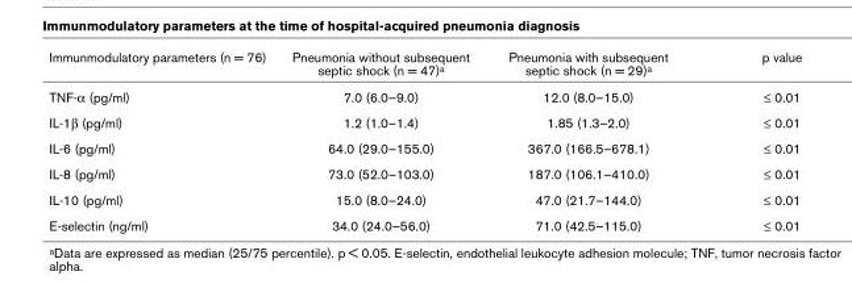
<table><thead><tr><td>Immunmodulatory parameters (n = 76)</td><td>Pneumonia without subsequent septic shock (n = 47)a</td><td>Pneumonia with subsequent septic shock (n = 29)a</td><td>p value</td></tr></thead><tbody><tr><td>TNF-α (pg/ml)</td><td>7.0 (6.0–9.0)</td><td>12.0 (8.0–15.0)</td><td>≤ 0.01</td></tr><tr><td>IL-1β (pg/ml)</td><td>1.2 (1.0–1.4)</td><td>1.85 (1.3–2.0)</td><td>≤ 0.01</td></tr><tr><td>IL-6 (pg/ml)</td><td>64.0 (29.0–155.0)</td><td>367.0 (166.5–678.1)</td><td>≤ 0.01</td></tr><tr><td>IL-8 (pg/ml)</td><td>73.0 (52.0–103.0)</td><td>187.0 (106.1–410.0)</td><td>≤ 0.01</td></tr><tr><td>IL-10 (pg/ml)</td><td>15.0 (8.0–24.0)</td><td>47.0 (21.7–144.0)</td><td>≤ 0.01</td></tr><tr><td>E-selectin (ng/ml)</td><td>34.0 (24.0–56.0)</td><td>71.0 (42.5–115.0)</td><td>≤ 0.01</td></tr></tbody></table>